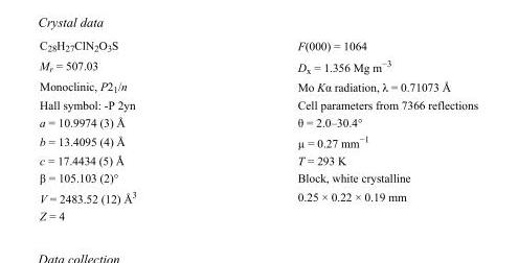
<table><tbody><tr><td>C<sub>28</sub>H<sub>27</sub>ClN<sub>2</sub>O<sub>3</sub>S</td><td>F(000) = 1064</td></tr><tr><td>M<sub>r</sub> = 507.03</td><td>D<sub>x</sub> = 1.356 Mg m<sup>−3</sup></td></tr><tr><td>Monoclinic, P2<sub>1</sub>/n</td><td>Mo Kα radiation, λ = 0.71073 Å</td></tr><tr><td>Hall symbol: -P 2yn</td><td>Cell parameters from 7366 reflections</td></tr><tr><td>a = 10.9974 (3) Å</td><td>θ = 2.0–30.4°</td></tr><tr><td>b = 13.4095 (4) Å</td><td>µ = 0.27 mm<sup>−1</sup></td></tr><tr><td>c = 17.4434 (5) Å</td><td>T = 293 K</td></tr><tr><td>β = 105.103 (2)°</td><td>Block, white crystalline</td></tr><tr><td>V = 2483.52 (12) Å<sup>3</sup></td><td>0.25 × 0.22 × 0.19 mm</td></tr><tr><td>Z = 4</td><td></td></tr></tbody></table>